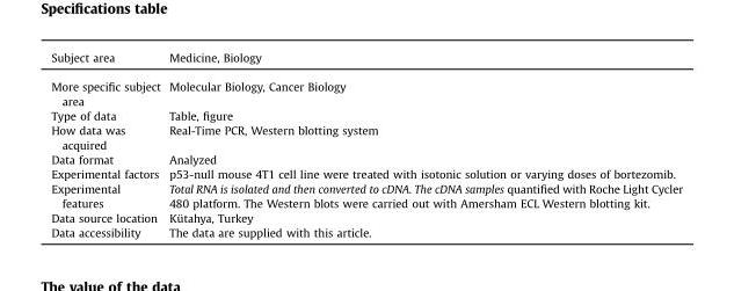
<table><thead><tr><td>Subject area</td><td>Medicine, Biology</td></tr></thead><tbody><tr><td>More specific subject area</td><td>Molecular Biology, Cancer Biology</td></tr><tr><td>Type of data</td><td>Table, figure</td></tr><tr><td>How data was acquired</td><td>Real-Time PCR, Western blotting system</td></tr><tr><td>Data format</td><td>Analyzed</td></tr><tr><td>Experimental factors</td><td>p53-null mouse 4T1 cell line were treated with isotonic solution or varying doses of bortezomib.</td></tr><tr><td>Experimental features</td><td>Total RNA is isolated and then converted to cDNA. The cDNA samples quantified with Roche Light Cycler 480 platform. The Western blots were carried out with Amersham ECL Western blotting kit.</td></tr><tr><td>Data source location</td><td>Kütahya, Turkey</td></tr><tr><td>Data accessibility</td><td>The data are supplied with this article.</td></tr></tbody></table>